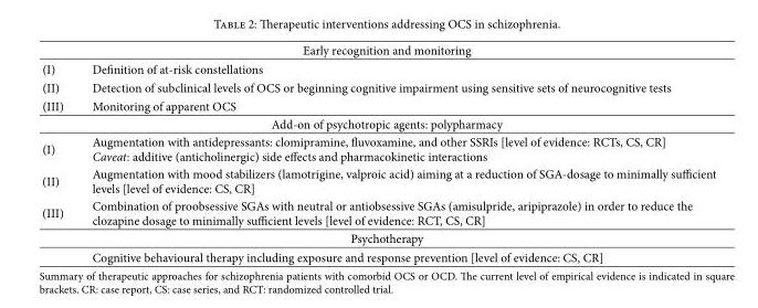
<table><thead><tr><td colspan="2">Early recognition and monitoring</td></tr><tr><td>(I)</td><td>Definition of at-risk constellations</td></tr></thead><tbody><tr><td>(II)</td><td>Detection of subclinical levels of OCS or beginning cognitive impairment using sensitive sets of neurocognitive tests</td></tr><tr><td>(III)</td><td>Monitoring of apparent OCS</td></tr><tr><td colspan="2">Add-on of psychotropic agents: polypharmacy</td></tr><tr><td>(I)</td><td>Augmentation with antidepressants: clomipramine, fluvoxamine, and other SSRIs [level of evidence: RCTs, CS, CR] Caveat: additive (anticholinergic) side effects and pharmacokinetic interactions</td></tr><tr><td>(II)</td><td>Augmentation with mood stabilizers (lamotrigine, valproic acid) aiming at a reduction of SGA-dosage to minimally sufficient levels [level of evidence: CS, CR]</td></tr><tr><td>(III)</td><td>Combination of proobsessive SGAs with neutral or antiobsessive SGAs (amisulpride, aripiprazole) in order to reduce the clozapine dosage to minimally sufficient levels [level of evidence: RCT, CS, CR]</td></tr><tr><td colspan="2">Psychotherapy</td></tr><tr><td></td><td>Cognitive behavioural therapy including exposure and response prevention [level of evidence: CS, CR]</td></tr></tbody></table>